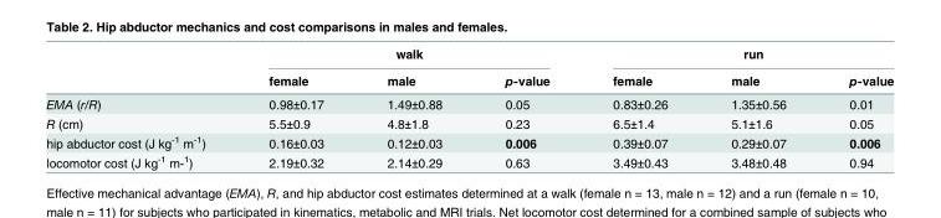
<table><thead><tr><td rowspan="2"></td><td colspan="3">walk</td><td colspan="3">run</td></tr><tr><td>female</td><td>male</td><td>p-value</td><td>female</td><td>male</td><td>p-value</td></tr></thead><tbody><tr><td>EMA (r/R)</td><td>0.98±0.17</td><td>1.49±0.88</td><td>0.05</td><td>0.83±0.26</td><td>1.35±0.56</td><td>0.01</td></tr><tr><td>R (cm)</td><td>5.5±0.9</td><td>4.8±1.8</td><td>0.23</td><td>6.5±1.4</td><td>5.1±1.6</td><td>0.05</td></tr><tr><td>hip abductor cost (J kg<sup>-1</sup> m<sup>-1</sup>)</td><td>0.16±0.03</td><td>0.12±0.03</td><td>0.006</td><td>0.39±0.07</td><td>0.29±0.07</td><td>0.006</td></tr><tr><td>locomotor cost (J kg<sup>-1</sup> m-<sup>1</sup>)</td><td>2.19±0.32</td><td>2.14±0.29</td><td>0.63</td><td>3.49±0.43</td><td>3.48±0.48</td><td>0.94</td></tr></tbody></table>